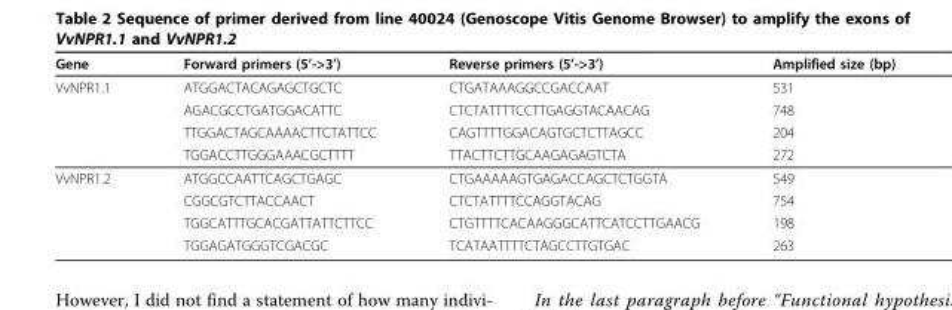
<table><thead><tr><td>Gene</td><td>Forward primers (5’-&gt;3’)</td><td>Reverse primers (5’-&gt;3’)</td><td>Amplified size (bp)</td></tr></thead><tbody><tr><td rowspan="4">VvNPR1.1</td><td>ATGGACTACAGAGCTGCTC</td><td>CTGATAAAGGCCGACCAAT</td><td>531</td></tr><tr><td>AGACGCCTGATGGACATTC</td><td>CTCTATTTTCCTTGAGGTACAACAG</td><td>748</td></tr><tr><td>TTGGACTAGCAAAACTTCTATTCC</td><td>CAGTTTTGGACAGTGCTCTTAGCC</td><td>204</td></tr><tr><td>TGGACCTTGGGAAACGCTTTT</td><td>TTACTTCTTGCAAGAGAGTCTA</td><td>272</td></tr><tr><td rowspan="4">VvNPR1.2</td><td>ATGGCCAATTCAGCTGAGC</td><td>CTGAAAAAGTGAGACCAGCTCTGGTA</td><td>549</td></tr><tr><td>CGGCGTCTTACCAACT</td><td>CTCTATTTTCCAGGTACAG</td><td>754</td></tr><tr><td>TGGCATTTGCACGATTATTCTTCC</td><td>CTGTTTTCACAAGGGCATTCATCCTTGAACG</td><td>198</td></tr><tr><td>TGGAGATGGGTCGACGC</td><td>TCATAATTTTCTAGCCTTGTGAC</td><td>263</td></tr></tbody></table>